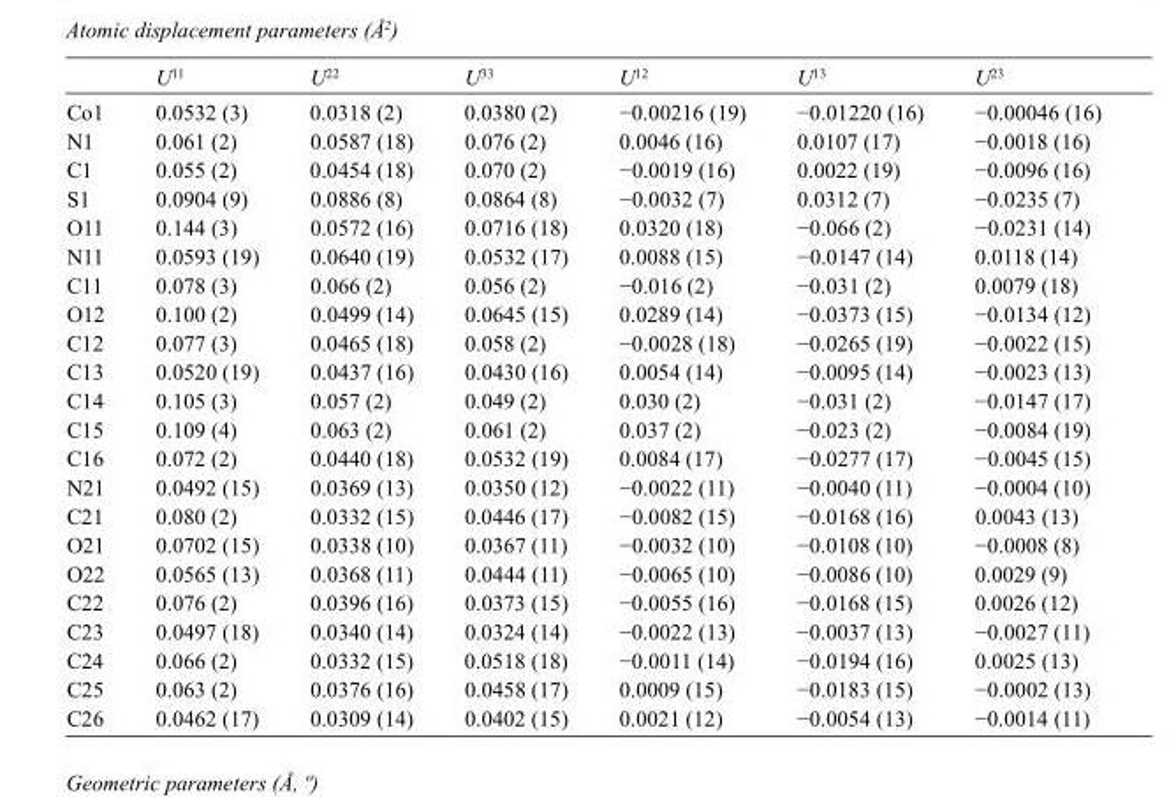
<table><thead><tr><td></td><td>U<sup>11</sup></td><td>U<sup>22</sup></td><td>U<sup>33</sup></td><td>U<sup>12</sup></td><td>U<sup>13</sup></td><td>U<sup>23</sup></td></tr></thead><tbody><tr><td>Co1</td><td>0.0532 (3)</td><td>0.0318 (2)</td><td>0.0380 (2)</td><td>−0.00216 (19)</td><td>−0.01220 (16)</td><td>−0.00046 (16)</td></tr><tr><td>N1</td><td>0.061 (2)</td><td>0.0587 (18)</td><td>0.076 (2)</td><td>0.0046 (16)</td><td>0.0107 (17)</td><td>−0.0018 (16)</td></tr><tr><td>C1</td><td>0.055 (2)</td><td>0.0454 (18)</td><td>0.070 (2)</td><td>−0.0019 (16)</td><td>0.0022 (19)</td><td>−0.0096 (16)</td></tr><tr><td>S1</td><td>0.0904 (9)</td><td>0.0886 (8)</td><td>0.0864 (8)</td><td>−0.0032 (7)</td><td>0.0312 (7)</td><td>−0.0235 (7)</td></tr><tr><td>O11</td><td>0.144 (3)</td><td>0.0572 (16)</td><td>0.0716 (18)</td><td>0.0320 (18)</td><td>−0.066 (2)</td><td>−0.0231 (14)</td></tr><tr><td>N11</td><td>0.0593 (19)</td><td>0.0640 (19)</td><td>0.0532 (17)</td><td>0.0088 (15)</td><td>−0.0147 (14)</td><td>0.0118 (14)</td></tr><tr><td>C11</td><td>0.078 (3)</td><td>0.066 (2)</td><td>0.056 (2)</td><td>−0.016 (2)</td><td>−0.031 (2)</td><td>0.0079 (18)</td></tr><tr><td>O12</td><td>0.100 (2)</td><td>0.0499 (14)</td><td>0.0645 (15)</td><td>0.0289 (14)</td><td>−0.0373 (15)</td><td>−0.0134 (12)</td></tr><tr><td>C12</td><td>0.077 (3)</td><td>0.0465 (18)</td><td>0.058 (2)</td><td>−0.0028 (18)</td><td>−0.0265 (19)</td><td>−0.0022 (15)</td></tr><tr><td>C13</td><td>0.0520 (19)</td><td>0.0437 (16)</td><td>0.0430 (16)</td><td>0.0054 (14)</td><td>−0.0095 (14)</td><td>−0.0023 (13)</td></tr><tr><td>C14</td><td>0.105 (3)</td><td>0.057 (2)</td><td>0.049 (2)</td><td>0.030 (2)</td><td>−0.031 (2)</td><td>−0.0147 (17)</td></tr><tr><td>C15</td><td>0.109 (4)</td><td>0.063 (2)</td><td>0.061 (2)</td><td>0.037 (2)</td><td>−0.023 (2)</td><td>−0.0084 (19)</td></tr><tr><td>C16</td><td>0.072 (2)</td><td>0.0440 (18)</td><td>0.0532 (19)</td><td>0.0084 (17)</td><td>−0.0277 (17)</td><td>−0.0045 (15)</td></tr><tr><td>N21</td><td>0.0492 (15)</td><td>0.0369 (13)</td><td>0.0350 (12)</td><td>−0.0022 (11)</td><td>−0.0040 (11)</td><td>−0.0004 (10)</td></tr><tr><td>C21</td><td>0.080 (2)</td><td>0.0332 (15)</td><td>0.0446 (17)</td><td>−0.0082 (15)</td><td>−0.0168 (16)</td><td>0.0043 (13)</td></tr><tr><td>O21</td><td>0.0702 (15)</td><td>0.0338 (10)</td><td>0.0367 (11)</td><td>−0.0032 (10)</td><td>−0.0108 (10)</td><td>−0.0008 (8)</td></tr><tr><td>O22</td><td>0.0565 (13)</td><td>0.0368 (11)</td><td>0.0444 (11)</td><td>−0.0065 (10)</td><td>−0.0086 (10)</td><td>0.0029 (9)</td></tr><tr><td>C22</td><td>0.076 (2)</td><td>0.0396 (16)</td><td>0.0373 (15)</td><td>−0.0055 (16)</td><td>−0.0168 (15)</td><td>0.0026 (12)</td></tr><tr><td>C23</td><td>0.0497 (18)</td><td>0.0340 (14)</td><td>0.0324 (14)</td><td>−0.0022 (13)</td><td>−0.0037 (13)</td><td>−0.0027 (11)</td></tr><tr><td>C24</td><td>0.066 (2)</td><td>0.0332 (15)</td><td>0.0518 (18)</td><td>−0.0011 (14)</td><td>−0.0194 (16)</td><td>0.0025 (13)</td></tr><tr><td>C25</td><td>0.063 (2)</td><td>0.0376 (16)</td><td>0.0458 (17)</td><td>0.0009 (15)</td><td>−0.0183 (15)</td><td>−0.0002 (13)</td></tr><tr><td>C26</td><td>0.0462 (17)</td><td>0.0309 (14)</td><td>0.0402 (15)</td><td>0.0021 (12)</td><td>−0.0054 (13)</td><td>−0.0014 (11)</td></tr></tbody></table>